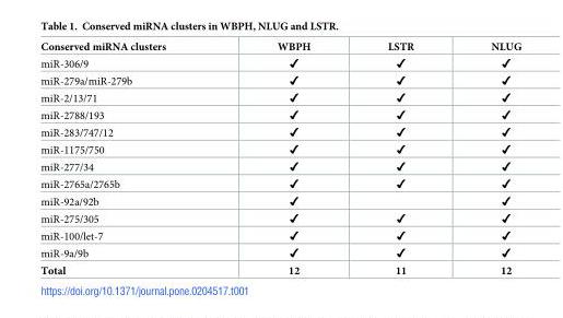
<table><thead><tr><td>Conserved miRNA clusters</td><td>WBPH</td><td>LSTR</td><td>NLUG</td></tr></thead><tbody><tr><td>miR-306/9</td><td>✔</td><td>✔</td><td>✔</td></tr><tr><td>miR-279a/miR-279b</td><td>✔</td><td>✔</td><td>✔</td></tr><tr><td>miR-2/13/71</td><td>✔</td><td>✔</td><td>✔</td></tr><tr><td>miR-2788/193</td><td>✔</td><td>✔</td><td>✔</td></tr><tr><td>miR-283/747/12</td><td>✔</td><td>✔</td><td>✔</td></tr><tr><td>miR-1175/750</td><td>✔</td><td>✔</td><td>✔</td></tr><tr><td>miR-277/34</td><td>✔</td><td>✔</td><td>✔</td></tr><tr><td>miR-2765a/2765b</td><td>✔</td><td>✔</td><td>✔</td></tr><tr><td>miR-92a/92b</td><td>✔</td><td></td><td>✔</td></tr><tr><td>miR-275/305</td><td>✔</td><td>✔</td><td>✔</td></tr><tr><td>miR-100/let-7</td><td>✔</td><td>✔</td><td>✔</td></tr><tr><td>miR-9a/9b</td><td>✔</td><td>✔</td><td>✔</td></tr><tr><td>Total</td><td>12</td><td>11</td><td>12</td></tr></tbody></table>